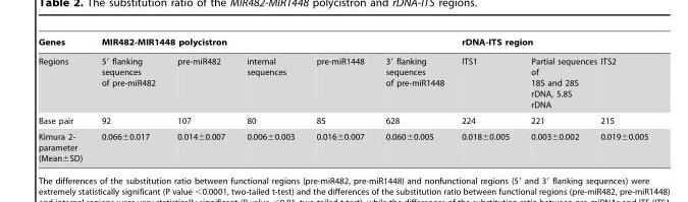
<table><thead><tr><td rowspan="2">Genes Regions</td><td colspan="5">MIR482-MIR1448 polycistron</td><td colspan="3">rDNA-ITS region</td></tr><tr><td>5′ flanking sequences of pre-miR482</td><td>pre-miR482</td><td>internal sequences</td><td>pre-miR1448</td><td>3′ flanking sequences of pre-miR1448</td><td>ITS1</td><td>Partial sequences of 18S and 28S rDNA, 5.8S rDNA</td><td>ITS2</td></tr></thead><tbody><tr><td>Base pair</td><td>92</td><td>107</td><td>80</td><td>85</td><td>628</td><td>224</td><td>221</td><td>215</td></tr><tr><td>Kimura 2- parameter (Mean±SD)</td><td>0.066±0.017</td><td>0.014±0.007</td><td>0.006±0.003</td><td>0.016±0.007</td><td>0.060±0.005</td><td>0.018±0.005</td><td>0.003±0.002</td><td>0.019±0.005</td></tr></tbody></table>